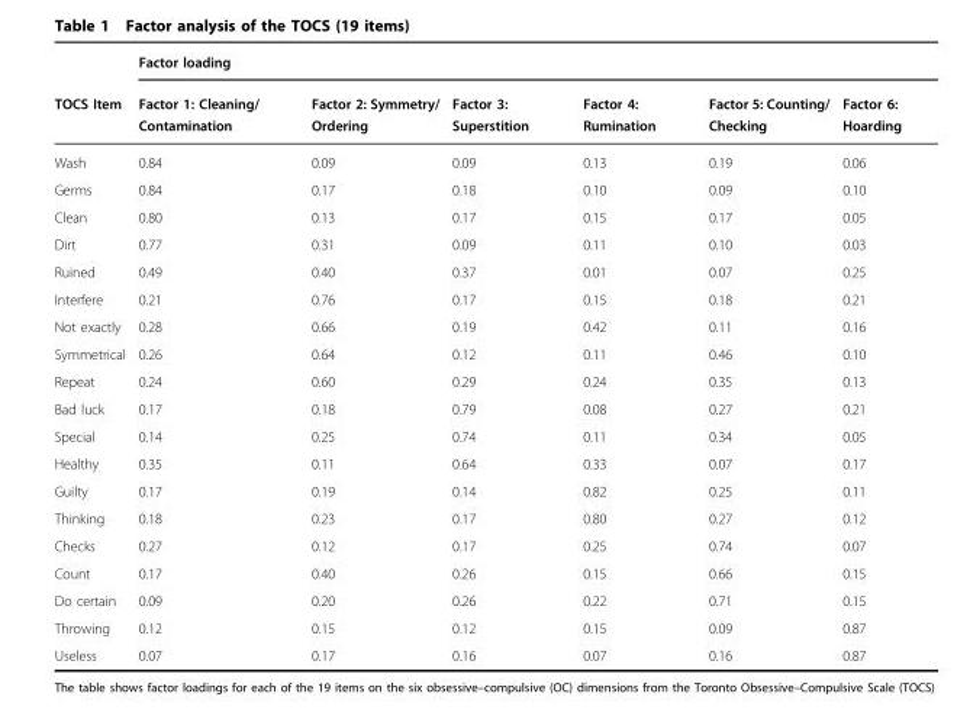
<table><thead><tr><td rowspan="2">TOCS Item</td><td colspan="6">Factor loading</td></tr><tr><td>Factor 1: Cleaning/ Contamination</td><td>Factor 2: Symmetry/ Ordering</td><td>Factor 3: Superstition</td><td>Factor 4: Rumination</td><td>Factor 5: Counting/ Checking</td><td>Factor 6: Hoarding</td></tr></thead><tbody><tr><td>Wash</td><td>0.84</td><td>0.09</td><td>0.09</td><td>0.13</td><td>0.19</td><td>0.06</td></tr><tr><td>Germs</td><td>0.84</td><td>0.17</td><td>0.18</td><td>0.10</td><td>0.09</td><td>0.10</td></tr><tr><td>Clean</td><td>0.80</td><td>0.13</td><td>0.17</td><td>0.15</td><td>0.17</td><td>0.05</td></tr><tr><td>Dirt</td><td>0.77</td><td>0.31</td><td>0.09</td><td>0.11</td><td>0.10</td><td>0.03</td></tr><tr><td>Ruined</td><td>0.49</td><td>0.40</td><td>0.37</td><td>0.01</td><td>0.07</td><td>0.25</td></tr><tr><td>Interfere</td><td>0.21</td><td>0.76</td><td>0.17</td><td>0.15</td><td>0.18</td><td>0.21</td></tr><tr><td>Not exactly</td><td>0.28</td><td>0.66</td><td>0.19</td><td>0.42</td><td>0.11</td><td>0.16</td></tr><tr><td>Symmetrical</td><td>0.26</td><td>0.64</td><td>0.12</td><td>0.11</td><td>0.46</td><td>0.10</td></tr><tr><td>Repeat</td><td>0.24</td><td>0.60</td><td>0.29</td><td>0.24</td><td>0.35</td><td>0.13</td></tr><tr><td>Bad luck</td><td>0.17</td><td>0.18</td><td>0.79</td><td>0.08</td><td>0.27</td><td>0.21</td></tr><tr><td>Special</td><td>0.14</td><td>0.25</td><td>0.74</td><td>0.11</td><td>0.34</td><td>0.05</td></tr><tr><td>Healthy</td><td>0.35</td><td>0.11</td><td>0.64</td><td>0.33</td><td>0.07</td><td>0.17</td></tr><tr><td>Guilty</td><td>0.17</td><td>0.19</td><td>0.14</td><td>0.82</td><td>0.25</td><td>0.11</td></tr><tr><td>Thinking</td><td>0.18</td><td>0.23</td><td>0.17</td><td>0.80</td><td>0.27</td><td>0.12</td></tr><tr><td>Checks</td><td>0.27</td><td>0.12</td><td>0.17</td><td>0.25</td><td>0.74</td><td>0.07</td></tr><tr><td>Count</td><td>0.17</td><td>0.40</td><td>0.26</td><td>0.15</td><td>0.66</td><td>0.15</td></tr><tr><td>Do certain</td><td>0.09</td><td>0.20</td><td>0.26</td><td>0.22</td><td>0.71</td><td>0.15</td></tr><tr><td>Throwing</td><td>0.12</td><td>0.15</td><td>0.12</td><td>0.15</td><td>0.09</td><td>0.87</td></tr><tr><td>Useless</td><td>0.07</td><td>0.17</td><td>0.16</td><td>0.07</td><td>0.16</td><td>0.87</td></tr></tbody></table>